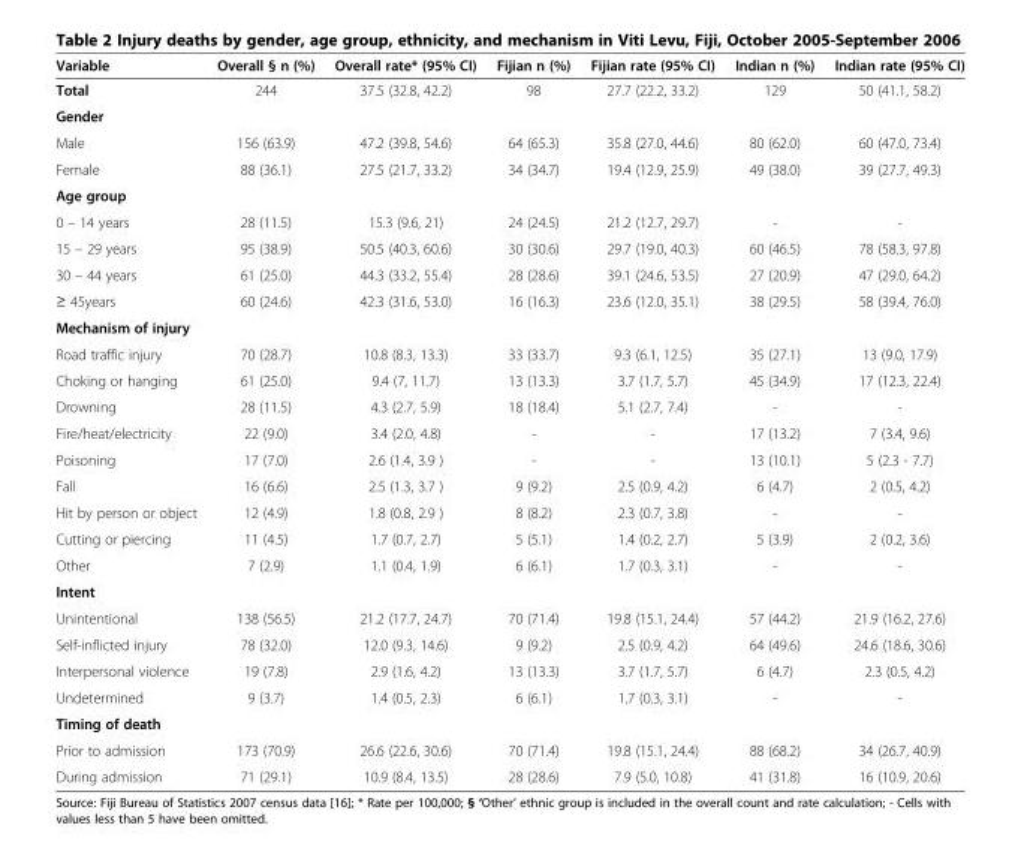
<table><thead><tr><td>Variable</td><td>Overall § n (%)</td><td>Overall rate* (95% CI)</td><td>Fijian n (%)</td><td>Fijian rate (95% CI)</td><td>Indian n (%)</td><td>Indian rate (95% CI)</td></tr></thead><tbody><tr><td>Total</td><td>244</td><td>37.5 (32.8, 42.2)</td><td>98</td><td>27.7 (22.2, 33.2)</td><td>129</td><td>50 (41.1, 58.2)</td></tr><tr><td colspan="7">Gender</td></tr><tr><td>Male</td><td>156 (63.9)</td><td>47.2 (39.8, 54.6)</td><td>64 (65.3)</td><td>35.8 (27.0, 44.6)</td><td>80 (62.0)</td><td>60 (47.0, 73.4)</td></tr><tr><td>Female</td><td>88 (36.1)</td><td>27.5 (21.7, 33.2)</td><td>34 (34.7)</td><td>19.4 (12.9, 25.9)</td><td>49 (38.0)</td><td>39 (27.7, 49.3)</td></tr><tr><td colspan="7">Age group</td></tr><tr><td>0 – 14 years</td><td>28 (11.5)</td><td>15.3 (9.6, 21)</td><td>24 (24.5)</td><td>21.2 (12.7, 29.7)</td><td>-</td><td>-</td></tr><tr><td>15 – 29 years</td><td>95 (38.9)</td><td>50.5 (40.3, 60.6)</td><td>30 (30.6)</td><td>29.7 (19.0, 40.3)</td><td>60 (46.5)</td><td>78 (58.3, 97.8)</td></tr><tr><td>30 – 44 years</td><td>61 (25.0)</td><td>44.3 (33.2, 55.4)</td><td>28 (28.6)</td><td>39.1 (24.6, 53.5)</td><td>27 (20.9)</td><td>47 (29.0, 64.2)</td></tr><tr><td>≥ 45years</td><td>60 (24.6)</td><td>42.3 (31.6, 53.0)</td><td>16 (16.3)</td><td>23.6 (12.0, 35.1)</td><td>38 (29.5)</td><td>58 (39.4, 76.0)</td></tr><tr><td colspan="7">Mechanism of injury</td></tr><tr><td>Road traffic injury</td><td>70 (28.7)</td><td>10.8 (8.3, 13.3)</td><td>33 (33.7)</td><td>9.3 (6.1, 12.5)</td><td>35 (27.1)</td><td>13 (9.0, 17.9)</td></tr><tr><td>Choking or hanging</td><td>61 (25.0)</td><td>9.4 (7, 11.7)</td><td>13 (13.3)</td><td>3.7 (1.7, 5.7)</td><td>45 (34.9)</td><td>17 (12.3, 22.4)</td></tr><tr><td>Drowning</td><td>28 (11.5)</td><td>4.3 (2.7, 5.9)</td><td>18 (18.4)</td><td>5.1 (2.7, 7.4)</td><td>-</td><td>-</td></tr><tr><td>Fire/heat/electricity</td><td>22 (9.0)</td><td>3.4 (2.0, 4.8)</td><td>-</td><td>-</td><td>17 (13.2)</td><td>7 (3.4, 9.6)</td></tr><tr><td>Poisoning</td><td>17 (7.0)</td><td>2.6 (1.4, 3.9 )</td><td>-</td><td>-</td><td>13 (10.1)</td><td>5 (2.3 - 7.7)</td></tr><tr><td>Fall</td><td>16 (6.6)</td><td>2.5 (1.3, 3.7 )</td><td>9 (9.2)</td><td>2.5 (0.9, 4.2)</td><td>6 (4.7)</td><td>2 (0.5, 4.2)</td></tr><tr><td>Hit by person or object</td><td>12 (4.9)</td><td>1.8 (0.8, 2.9 )</td><td>8 (8.2)</td><td>2.3 (0.7, 3.8)</td><td>-</td><td>-</td></tr><tr><td>Cutting or piercing</td><td>11 (4.5)</td><td>1.7 (0.7, 2.7)</td><td>5 (5.1)</td><td>1.4 (0.2, 2.7)</td><td>5 (3.9)</td><td>2 (0.2, 3.6)</td></tr><tr><td>Other</td><td>7 (2.9)</td><td>1.1 (0.4, 1.9)</td><td>6 (6.1)</td><td>1.7 (0.3, 3.1)</td><td>-</td><td>-</td></tr><tr><td colspan="7">Intent</td></tr><tr><td>Unintentional</td><td>138 (56.5)</td><td>21.2 (17.7, 24.7)</td><td>70 (71.4)</td><td>19.8 (15.1, 24.4)</td><td>57 (44.2)</td><td>21.9 (16.2, 27.6)</td></tr><tr><td>Self-inflicted injury</td><td>78 (32.0)</td><td>12.0 (9.3, 14.6)</td><td>9 (9.2)</td><td>2.5 (0.9, 4.2)</td><td>64 (49.6)</td><td>24.6 (18.6, 30.6)</td></tr><tr><td>Interpersonal violence</td><td>19 (7.8)</td><td>2.9 (1.6, 4.2)</td><td>13 (13.3)</td><td>3.7 (1.7, 5.7)</td><td>6 (4.7)</td><td>2.3 (0.5, 4.2)</td></tr><tr><td>Undetermined</td><td>9 (3.7)</td><td>1.4 (0.5, 2.3)</td><td>6 (6.1)</td><td>1.7 (0.3, 3.1)</td><td>-</td><td>-</td></tr><tr><td colspan="7">Timing of death</td></tr><tr><td>Prior to admission</td><td>173 (70.9)</td><td>26.6 (22.6, 30.6)</td><td>70 (71.4)</td><td>19.8 (15.1, 24.4)</td><td>88 (68.2)</td><td>34 (26.7, 40.9)</td></tr><tr><td>During admission</td><td>71 (29.1)</td><td>10.9 (8.4, 13.5)</td><td>28 (28.6)</td><td>7.9 (5.0, 10.8)</td><td>41 (31.8)</td><td>16 (10.9, 20.6)</td></tr></tbody></table>